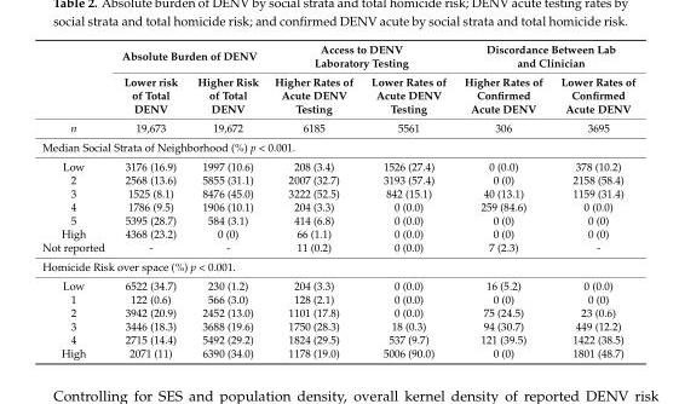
<table><thead><tr><td rowspan="2"></td><td colspan="2">Absolute Burden of DENV</td><td colspan="2">Access to DENV Laboratory Testing</td><td colspan="2">Discordance Between Lab and Clinician</td></tr><tr><td>Lower risk of Total DENV</td><td>Higher Risk of Total DENV</td><td>Higher Rates of Acute DENV Testing</td><td>Lower Rates of Acute DENV Testing</td><td>Higher Rates of Confirmed Acute DENV</td><td>Lower Rates of Confirmed Acute DENV</td></tr></thead><tbody><tr><td>n</td><td>19,673</td><td>19,672</td><td>6185</td><td>5561</td><td>306</td><td>3695</td></tr><tr><td colspan="7">Median Social Strata of Neighborhood (%) p &lt; 0.001.</td></tr><tr><td>Low</td><td>3176 (16.9)</td><td>1997 (10.6)</td><td>208 (3.4)</td><td>1526 (27.4)</td><td>0 (0.0)</td><td>378 (10.2)</td></tr><tr><td>2</td><td>2568 (13.6)</td><td>5855 (31.1)</td><td>2007 (32.7)</td><td>3193 (57.4)</td><td>0 (0)</td><td>2158 (58.4)</td></tr><tr><td>3</td><td>1525 (8.1)</td><td>8476 (45.0)</td><td>3222 (52.5)</td><td>842 (15.1)</td><td>40 (13.1)</td><td>1159 (31.4)</td></tr><tr><td>4</td><td>1786 (9.5)</td><td>1906 (10.1)</td><td>204 (3.3)</td><td>0 (0.0)</td><td>259 (84.6)</td><td>0 (0.0)</td></tr><tr><td>5</td><td>5395 (28.7)</td><td>584 (3.1)</td><td>414 (6.8)</td><td>0 (0.0)</td><td>0 (0)</td><td>0 (0)</td></tr><tr><td>High</td><td>4368 (23.2)</td><td>0 (0)</td><td>66 (1.1)</td><td>0 (0.0)</td><td>0 (0)</td><td>0 (0)</td></tr><tr><td>Not reported</td><td>-</td><td>-</td><td>11 (0.2)</td><td>0 (0.0)</td><td>7 (2.3)</td><td>-</td></tr><tr><td colspan="7">Homicide Risk over space (%) p &lt; 0.001.</td></tr><tr><td>Low</td><td>6522 (34.7)</td><td>230 (1.2)</td><td>204 (3.3)</td><td>0 (0.0)</td><td>16 (5.2)</td><td>0 (0.0)</td></tr><tr><td>1</td><td>122 (0.6)</td><td>566 (3.0)</td><td>128 (2.1)</td><td>0 (0.0)</td><td>0 (0)</td><td>0 (0)</td></tr><tr><td>2</td><td>3942 (20.9)</td><td>2452 (13.0)</td><td>1101 (17.8)</td><td>0 (0.0)</td><td>75 (24.5)</td><td>23 (0.6)</td></tr><tr><td>3</td><td>3446 (18.3)</td><td>3688 (19.6)</td><td>1750 (28.3)</td><td>18 (0.3)</td><td>94 (30.7)</td><td>449 (12.2)</td></tr><tr><td>4</td><td>2715 (14.4)</td><td>5492 (29.2)</td><td>1824 (29.5)</td><td>537 (9.7)</td><td>121 (39.5)</td><td>1422 (38.5)</td></tr><tr><td>High</td><td>2071 (11)</td><td>6390 (34.0)</td><td>1178 (19.0)</td><td>5006 (90.0)</td><td>0 (0)</td><td>1801 (48.7)</td></tr></tbody></table>